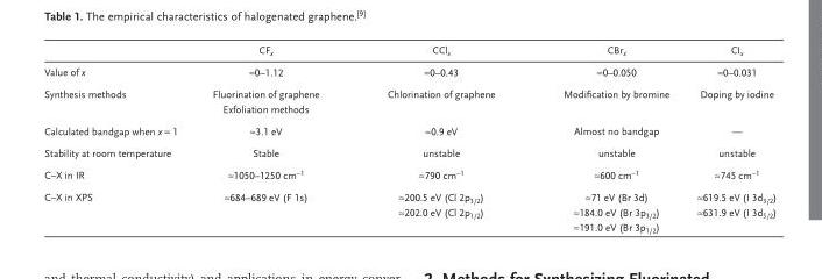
<table><thead><tr><td></td><td>CF <sub>x</sub></td><td>CCl <sub>x</sub></td><td>CBr <sub>x</sub></td><td>CI <sub>x</sub></td></tr></thead><tbody><tr><td>Value of x</td><td>≈0–1.12</td><td>≈0–0.43</td><td>≈0–0.050</td><td>≈0–0.031</td></tr><tr><td>Synthesis methods</td><td>Fluorination of graphene Exfoliation methods</td><td>Chlorination of graphene</td><td>Modifi cation by bromine</td><td>Doping by iodine</td></tr><tr><td>Calculated bandgap when x = 1</td><td>≈3.1 eV</td><td>≈0.9 eV</td><td>Almost no bandgap</td><td>—</td></tr><tr><td>Stability at room temperature</td><td>Stable</td><td>unstable</td><td>unstable</td><td>unstable</td></tr><tr><td>C–X in IR</td><td>≈1050–1250 cm <sup>−1</sup></td><td>≈790 cm <sup>−1</sup></td><td>≈600 cm <sup>−1</sup></td><td>≈745 cm <sup>−1</sup></td></tr><tr><td>C–X in XPS</td><td>≈684–689 eV (F 1s)</td><td>≈200.5 eV (Cl 2p <sub>3/2</sub> ) ≈202.0 eV (Cl 2p <sub>1/2</sub> )</td><td>≈71 eV (Br 3d) ≈184.0 eV (Br 3p <sub>3/2</sub> ) ≈191.0 eV (Br 3p <sub>1/2</sub> )</td><td>≈619.5 eV (I 3d <sub>3/2</sub> ) ≈631.9 eV (I 3d <sub>5/2</sub> )</td></tr></tbody></table>